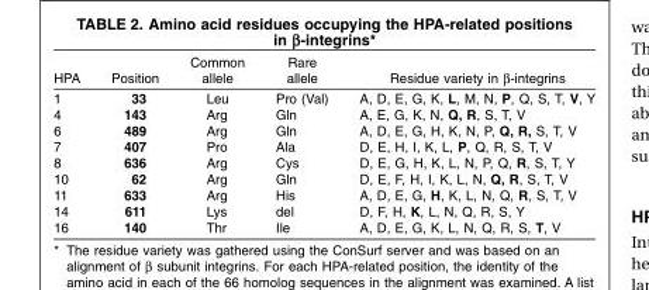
<table><thead><tr><td>HPA</td><td>Position</td><td>Common allele</td><td>Rare allele</td><td>Residue variety in β-integrins</td></tr></thead><tbody><tr><td>1</td><td>33</td><td>Leu</td><td>Pro (Val)</td><td>A, D, E, G, K, L, M, N, P, Q, S, T, V, Y</td></tr><tr><td>4</td><td>143</td><td>Arg</td><td>Gln</td><td>A, E, G, K, N, Q, R, S, T, V</td></tr><tr><td>6</td><td>489</td><td>Arg</td><td>Gln</td><td>A, D, E, G, H, K, N, P, Q, R, S, T, V</td></tr><tr><td>7</td><td>407</td><td>Pro</td><td>Ala</td><td>D, E, H, I, K, L, P, Q, R, S, T, V</td></tr><tr><td>8</td><td>636</td><td>Arg</td><td>Cys</td><td>D, E, G, H, K, L, N, P, Q, R, S, T, Y</td></tr><tr><td>10</td><td>62</td><td>Arg</td><td>Gln</td><td>D, E, F, H, I, K, L, N, Q, R, S, T, V</td></tr><tr><td>11</td><td>633</td><td>Arg</td><td>His</td><td>A, D, E, G, H, K, L, N, Q, R, S, T, V</td></tr><tr><td>14</td><td>611</td><td>Lys</td><td>del</td><td>D, F, H, K, L, N, Q, R, S, Y</td></tr><tr><td>16</td><td>140</td><td>Thr</td><td>Ile</td><td>A, D, E, G, K, L, N, Q, R, S, T, V</td></tr></tbody></table>